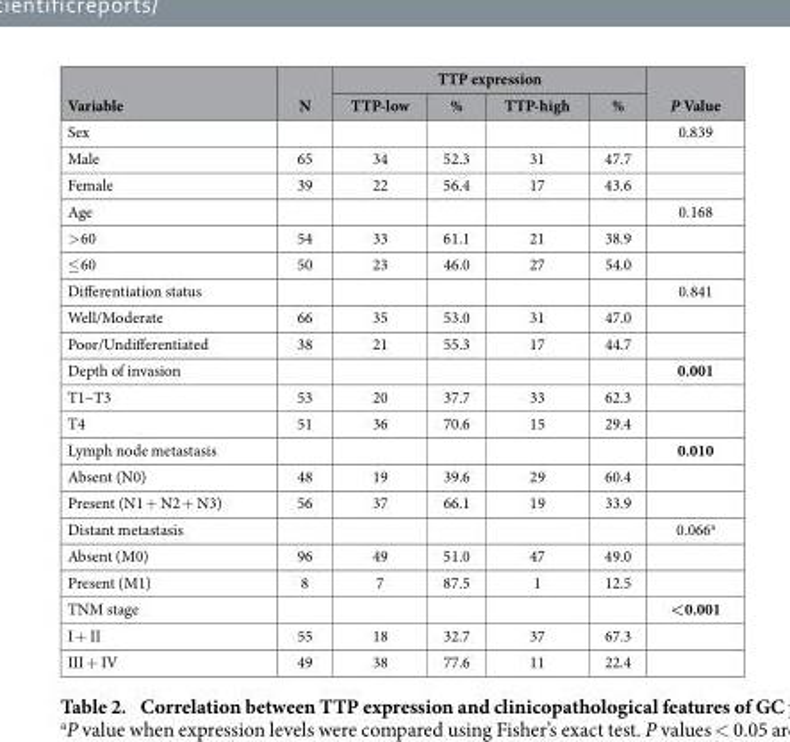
<table><thead><tr><td rowspan="2">Variable</td><td rowspan="2">N</td><td colspan="4">TTP expression</td><td rowspan="2">P Value</td></tr><tr><td>TTP-low</td><td>%</td><td>TTP-high</td><td>%</td></tr></thead><tbody><tr><td>Sex</td><td></td><td></td><td></td><td></td><td></td><td>0.839</td></tr><tr><td>Male</td><td>65</td><td>34</td><td>52.3</td><td>31</td><td>47.7</td><td></td></tr><tr><td>Female</td><td>39</td><td>22</td><td>56.4</td><td>17</td><td>43.6</td><td></td></tr><tr><td>Age</td><td></td><td></td><td></td><td></td><td></td><td>0.168</td></tr><tr><td>&gt; 60</td><td>54</td><td>33</td><td>61.1</td><td>21</td><td>38.9</td><td></td></tr><tr><td>≤ 60</td><td>50</td><td>23</td><td>46.0</td><td>27</td><td>54.0</td><td></td></tr><tr><td>Differentiation status</td><td></td><td></td><td></td><td></td><td></td><td>0.841</td></tr><tr><td>Well/Moderate</td><td>66</td><td>35</td><td>53.0</td><td>31</td><td>47.0</td><td></td></tr><tr><td>Poor/Undifferentiated</td><td>38</td><td>21</td><td>55.3</td><td>17</td><td>44.7</td><td></td></tr><tr><td>Depth of invasion</td><td></td><td></td><td></td><td></td><td></td><td>0.001</td></tr><tr><td>T1–T3</td><td>53</td><td>20</td><td>37.7</td><td>33</td><td>62.3</td><td></td></tr><tr><td>T4</td><td>51</td><td>36</td><td>70.6</td><td>15</td><td>29.4</td><td></td></tr><tr><td>Lymph node metastasis</td><td></td><td></td><td></td><td></td><td></td><td>0.010</td></tr><tr><td>Absent (N0)</td><td>48</td><td>19</td><td>39.6</td><td>29</td><td>60.4</td><td></td></tr><tr><td>Present (N1 + N2 + N3)</td><td>56</td><td>37</td><td>66.1</td><td>19</td><td>33.9</td><td></td></tr><tr><td>Distant metastasis</td><td></td><td></td><td></td><td></td><td></td><td>0.066<sup>a</sup></td></tr><tr><td>Absent (M0)</td><td>96</td><td>49</td><td>51.0</td><td>47</td><td>49.0</td><td></td></tr><tr><td>Present (M1)</td><td>8</td><td>7</td><td>87.5</td><td>1</td><td>12.5</td><td></td></tr><tr><td>TNM stage</td><td></td><td></td><td></td><td></td><td></td><td>&lt;0.001</td></tr><tr><td>I + II</td><td>55</td><td>18</td><td>32.7</td><td>37</td><td>67.3</td><td></td></tr><tr><td>III + IV</td><td>49</td><td>38</td><td>77.6</td><td>11</td><td>22.4</td><td></td></tr></tbody></table>